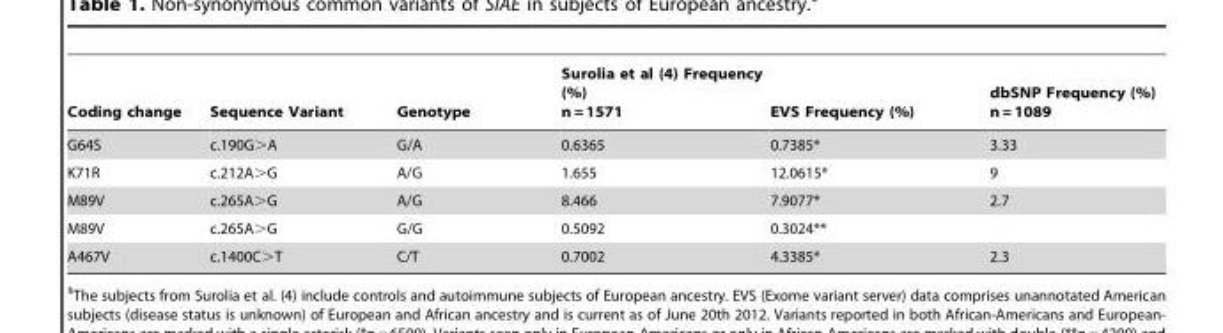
<table><thead><tr><td>Coding change</td><td>Sequence Variant</td><td>Genotype</td><td>Surolia et al (4) Frequency (%) n = 1571</td><td>EVS Frequency (%)</td><td>dbSNP Frequency (%) n = 1089</td></tr></thead><tbody><tr><td>G64S</td><td>c.190G&gt;A</td><td>G/A</td><td>0.6365</td><td>0.7385*</td><td>3.33</td></tr><tr><td>K71R</td><td>c.212A&gt;G</td><td>A/G</td><td>1.655</td><td>12.0615*</td><td>9</td></tr><tr><td>M89V</td><td>c.265A&gt;G</td><td>A/G</td><td>8.466</td><td>7.9077*</td><td>2.7</td></tr><tr><td>M89V</td><td>c.265A&gt;G</td><td>G/G</td><td>0.5092</td><td>0.3024**</td><td></td></tr><tr><td>A467V</td><td>c.1400C&gt;T</td><td>C/T</td><td>0.7002</td><td>4.3385*</td><td>2.3</td></tr></tbody></table>